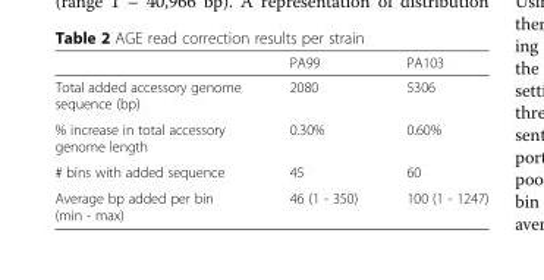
<table><thead><tr><td></td><td>PA99</td><td>PA103</td></tr></thead><tbody><tr><td>Total added accessory genome sequence (bp)</td><td>2080</td><td>5306</td></tr><tr><td>% increase in total accessory genome length</td><td>0.30%</td><td>0.60%</td></tr><tr><td># bins with added sequence</td><td>45</td><td>60</td></tr><tr><td>Average bp added per bin (min - max)</td><td>46 (1 - 350)</td><td>100 (1 - 1247)</td></tr></tbody></table>